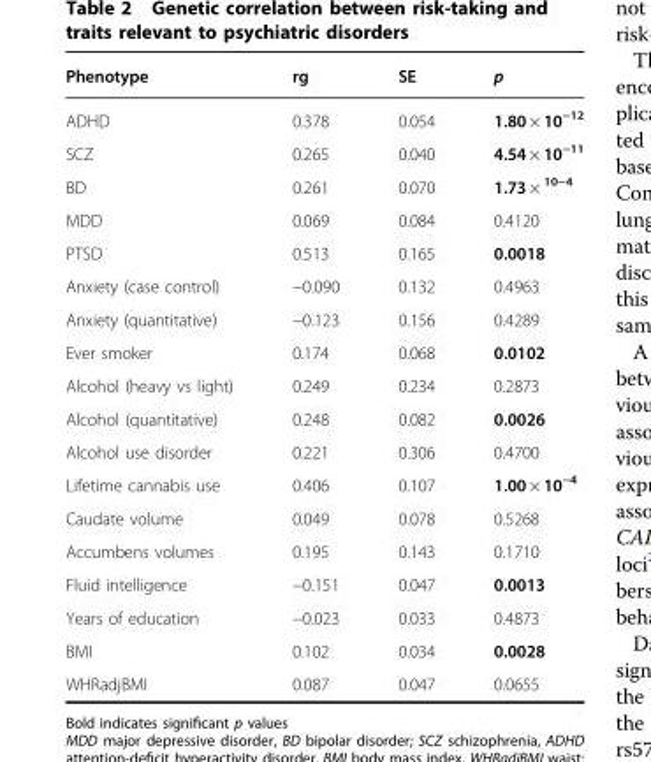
<table><thead><tr><td>Phenotype</td><td>rg</td><td>SE</td><td>p</td></tr></thead><tbody><tr><td>ADHD</td><td>0.378</td><td>0.054</td><td>1.80 × 10<sup>−12</sup></td></tr><tr><td>SCZ</td><td>0.265</td><td>0.040</td><td>4.54 × 10<sup>−11</sup></td></tr><tr><td>BD</td><td>0.261</td><td>0.070</td><td>1.73 × <sup>10−4</sup></td></tr><tr><td>MDD</td><td>0.069</td><td>0.084</td><td>0.4120</td></tr><tr><td>PTSD</td><td>0.513</td><td>0.165</td><td>0.0018</td></tr><tr><td>Anxiety (case control)</td><td>−0.090</td><td>0.132</td><td>0.4963</td></tr><tr><td>Anxiety (quantitative)</td><td>−0.123</td><td>0.156</td><td>0.4289</td></tr><tr><td>Ever smoker</td><td>0.174</td><td>0.068</td><td>0.0102</td></tr><tr><td>Alcohol (heavy vs light)</td><td>0.249</td><td>0.234</td><td>0.2873</td></tr><tr><td>Alcohol (quantitative)</td><td>0.248</td><td>0.082</td><td>0.0026</td></tr><tr><td>Alcohol use disorder</td><td>0.221</td><td>0.306</td><td>0.4700</td></tr><tr><td>Lifetime cannabis use</td><td>0.406</td><td>0.107</td><td>1.00 × 10<sup>−4</sup></td></tr><tr><td>Caudate volume</td><td>0.049</td><td>0.078</td><td>0.5268</td></tr><tr><td>Accumbens volumes</td><td>0.195</td><td>0.143</td><td>0.1710</td></tr><tr><td>Fluid intelligence</td><td>−0.151</td><td>0.047</td><td>0.0013</td></tr><tr><td>Years of education</td><td>−0.023</td><td>0.033</td><td>0.4873</td></tr><tr><td>BMI</td><td>0.102</td><td>0.034</td><td>0.0028</td></tr><tr><td>WHRadjBMI</td><td>0.087</td><td>0.047</td><td>0.0655</td></tr></tbody></table>